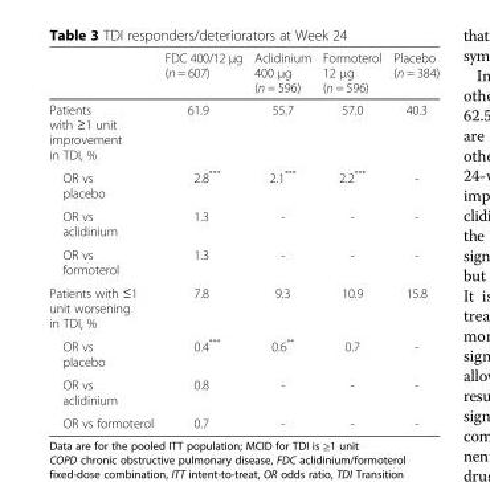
<table><thead><tr><td></td><td>FDC 400/12 μg (n = 607)</td><td>Aclidinium 400 μg (n = 596)</td><td>Formoterol 12 μg (n = 596)</td><td>Placebo (n = 384)</td></tr></thead><tbody><tr><td>Patients with ≥1 unit improvement in TDI, %</td><td>61.9</td><td>55.7</td><td>57.0</td><td>40.3</td></tr><tr><td>OR vs placebo</td><td>2.8***</td><td>2.1***</td><td>2.2***</td><td>-</td></tr><tr><td>OR vs aclidinium</td><td>1.3</td><td>-</td><td>-</td><td>-</td></tr><tr><td>OR vs formoterol</td><td>1.3</td><td>-</td><td>-</td><td>-</td></tr><tr><td>Patients with ≤1 unit worsening in TDI, %</td><td>7.8</td><td>9.3</td><td>10.9</td><td>15.8</td></tr><tr><td>OR vs placebo</td><td>0.4***</td><td>0.6**</td><td>0.7</td><td>-</td></tr><tr><td>OR vs aclidinium</td><td>0.8</td><td>-</td><td>-</td><td>-</td></tr><tr><td>OR vs formoterol</td><td>0.7</td><td>-</td><td>-</td><td>-</td></tr></tbody></table>